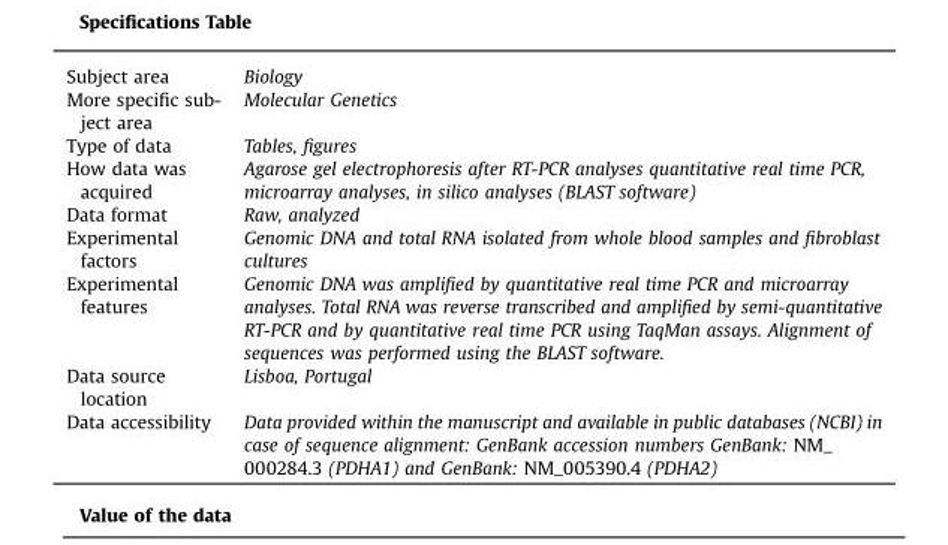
<table><tbody><tr><td>Subject area</td><td>Biology</td></tr><tr><td>More specific sub- ject area</td><td>Molecular Genetics</td></tr><tr><td>Type of data</td><td>Tables, figures</td></tr><tr><td>How data was acquired</td><td>Agarose gel electrophoresis after RT-PCR analyses quantitative real time PCR, microarray analyses, in silico analyses (BLAST software)</td></tr><tr><td>Data format</td><td>Raw, analyzed</td></tr><tr><td>Experimental factors</td><td>Genomic DNA and total RNA isolated from whole blood samples and fibroblast cultures</td></tr><tr><td>Experimental features</td><td>Genomic DNA was amplified by quantitative real time PCR and microarray analyses. Total RNA was reverse transcribed and amplified by semi-quantitative RT-PCR and by quantitative real time PCR using TaqMan assays. Alignment of sequences was performed using the BLAST software.</td></tr><tr><td>Data source location</td><td>Lisboa, Portugal</td></tr><tr><td>Data accessibility</td><td>Data provided within the manuscript and available in public databases (NCBI) in case of sequence alignment: GenBank accession numbers GenBank: NM_ 000284.3 (PDHA1) and GenBank: NM_005390.4 (PDHA2)</td></tr></tbody></table>